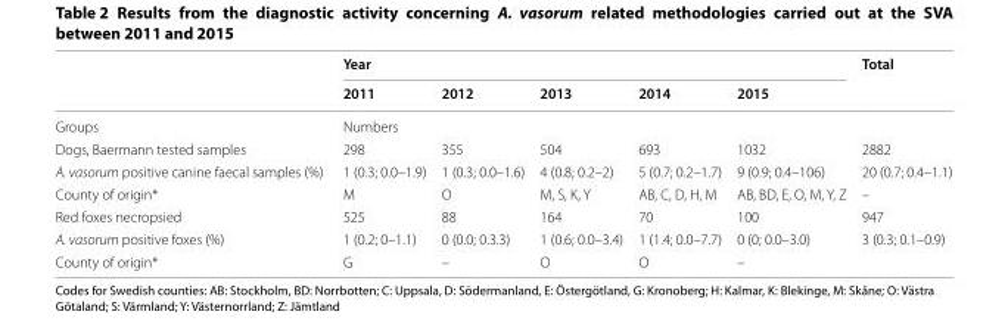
<table><thead><tr><td rowspan="2"></td><td colspan="5">Year</td><td rowspan="2">Total</td></tr><tr><td>2011</td><td>2012</td><td>2013</td><td>2014</td><td>2015</td></tr></thead><tbody><tr><td>Groups</td><td colspan="6">Numbers</td></tr><tr><td>Dogs, Baermann tested samples</td><td>298</td><td>355</td><td>504</td><td>693</td><td>1032</td><td>2882</td></tr><tr><td>A. vasorum positive canine faecal samples (%)</td><td>1 (0.3; 0.0–1.9)</td><td>1 (0.3; 0.0–1.6)</td><td>4 (0.8; 0.2–2)</td><td>5 (0.7; 0.2–1.7)</td><td>9 (0.9; 0.4–106)</td><td>20 (0.7; 0.4–1.1)</td></tr><tr><td>County of origin*</td><td>M</td><td>O</td><td>M, S, K, Y</td><td>AB, C, D, H, M</td><td>AB, BD, E, O, M, Y, Z</td><td>–</td></tr><tr><td>Red foxes necropsied</td><td>525</td><td>88</td><td>164</td><td>70</td><td>100</td><td>947</td></tr><tr><td>A. vasorum positive foxes (%)</td><td>1 (0.2; 0–1.1)</td><td>0 (0.0; 0.3.3)</td><td>1 (0.6; 0.0–3.4)</td><td>1 (1.4; 0.0–7.7)</td><td>0 (0; 0.0–3.0)</td><td>3 (0.3; 0.1–0.9)</td></tr><tr><td>County of origin*</td><td>G</td><td>–</td><td>O</td><td>O</td><td>–</td><td></td></tr></tbody></table>